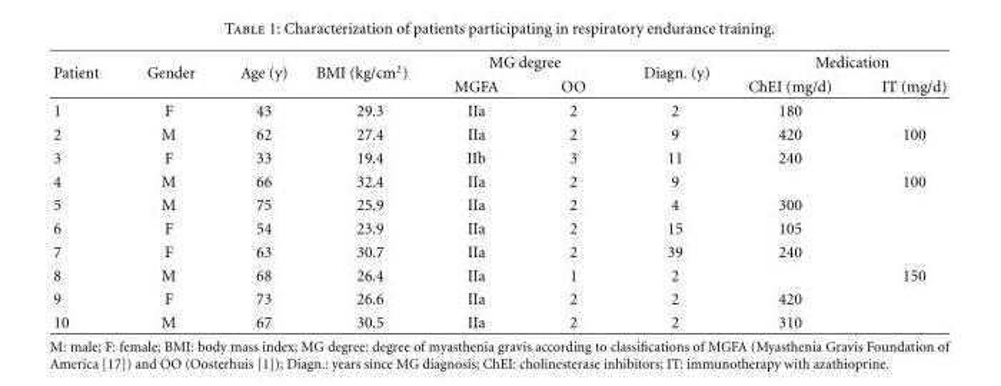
<table><thead><tr><td rowspan="2">Patient</td><td rowspan="2">Gender</td><td rowspan="2">Age (y)</td><td rowspan="2">BMI (kg/cm<sup>2</sup>)</td><td colspan="2">MG degree</td><td rowspan="2">Diagn. (y)</td><td colspan="2">Medication</td></tr><tr><td>MGFA</td><td>OO</td><td>ChEI (mg/d)</td><td>IT (mg/d)</td></tr></thead><tbody><tr><td>1</td><td>F</td><td>43</td><td>29.3</td><td>IIa</td><td>2</td><td>2</td><td>180</td><td></td></tr><tr><td>2</td><td>M</td><td>62</td><td>27.4</td><td>IIa</td><td>2</td><td>9</td><td>420</td><td>100</td></tr><tr><td>3</td><td>F</td><td>33</td><td>19.4</td><td>IIb</td><td>3</td><td>11</td><td>240</td><td></td></tr><tr><td>4</td><td>M</td><td>66</td><td>32.4</td><td>IIa</td><td>2</td><td>9</td><td></td><td>100</td></tr><tr><td>5</td><td>M</td><td>75</td><td>25.9</td><td>IIa</td><td>2</td><td>4</td><td>300</td><td></td></tr><tr><td>6</td><td>F</td><td>54</td><td>23.9</td><td>IIa</td><td>2</td><td>15</td><td>105</td><td></td></tr><tr><td>7</td><td>F</td><td>63</td><td>30.7</td><td>IIa</td><td>2</td><td>39</td><td>240</td><td></td></tr><tr><td>8</td><td>M</td><td>68</td><td>26.4</td><td>IIa</td><td>1</td><td>2</td><td></td><td>150</td></tr><tr><td>9</td><td>F</td><td>73</td><td>26.6</td><td>IIa</td><td>2</td><td>2</td><td>420</td><td></td></tr><tr><td>10</td><td>M</td><td>67</td><td>30.5</td><td>IIa</td><td>2</td><td>2</td><td>310</td><td></td></tr></tbody></table>